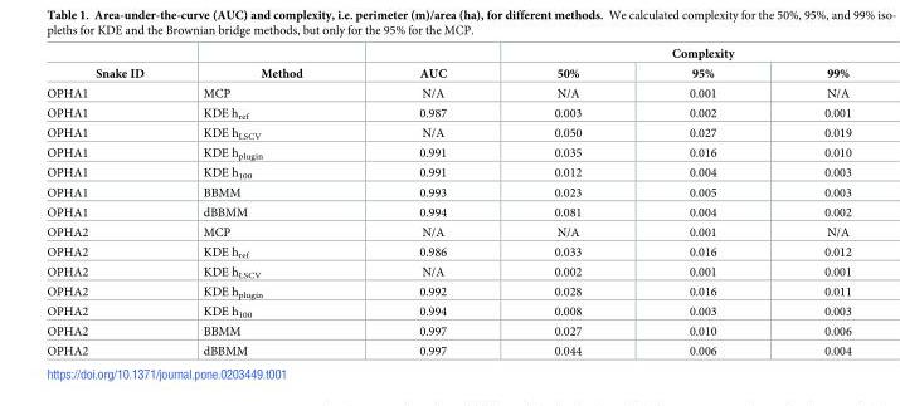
<table><thead><tr><td rowspan="2">Snake ID</td><td rowspan="2">Method</td><td rowspan="2">AUC</td><td colspan="3">Complexity</td></tr><tr><td>50%</td><td>95%</td><td>99%</td></tr></thead><tbody><tr><td>OPHA1</td><td>MCP</td><td>N/A</td><td>N/A</td><td>0.001</td><td>N/A</td></tr><tr><td>OPHA1</td><td>KDE h<sub>ref</sub></td><td>0.987</td><td>0.003</td><td>0.002</td><td>0.001</td></tr><tr><td>OPHA1</td><td>KDE h<sub>LSCV</sub></td><td>N/A</td><td>0.050</td><td>0.027</td><td>0.019</td></tr><tr><td>OPHA1</td><td>KDE h<sub>plugin</sub></td><td>0.991</td><td>0.035</td><td>0.016</td><td>0.010</td></tr><tr><td>OPHA1</td><td>KDE h<sub>100</sub></td><td>0.991</td><td>0.012</td><td>0.004</td><td>0.003</td></tr><tr><td>OPHA1</td><td>BBMM</td><td>0.993</td><td>0.023</td><td>0.005</td><td>0.003</td></tr><tr><td>OPHA1</td><td>dBBMM</td><td>0.994</td><td>0.081</td><td>0.004</td><td>0.002</td></tr><tr><td>OPHA2</td><td>MCP</td><td>N/A</td><td>N/A</td><td>0.001</td><td>N/A</td></tr><tr><td>OPHA2</td><td>KDE h<sub>ref</sub></td><td>0.986</td><td>0.033</td><td>0.016</td><td>0.012</td></tr><tr><td>OPHA2</td><td>KDE h<sub>LSCV</sub></td><td>N/A</td><td>0.002</td><td>0.001</td><td>0.001</td></tr><tr><td>OPHA2</td><td>KDE h<sub>plugin</sub></td><td>0.992</td><td>0.028</td><td>0.016</td><td>0.011</td></tr><tr><td>OPHA2</td><td>KDE h<sub>100</sub></td><td>0.994</td><td>0.008</td><td>0.003</td><td>0.003</td></tr><tr><td>OPHA2</td><td>BBMM</td><td>0.997</td><td>0.027</td><td>0.010</td><td>0.006</td></tr><tr><td>OPHA2</td><td>dBBMM</td><td>0.997</td><td>0.044</td><td>0.006</td><td>0.004</td></tr></tbody></table>